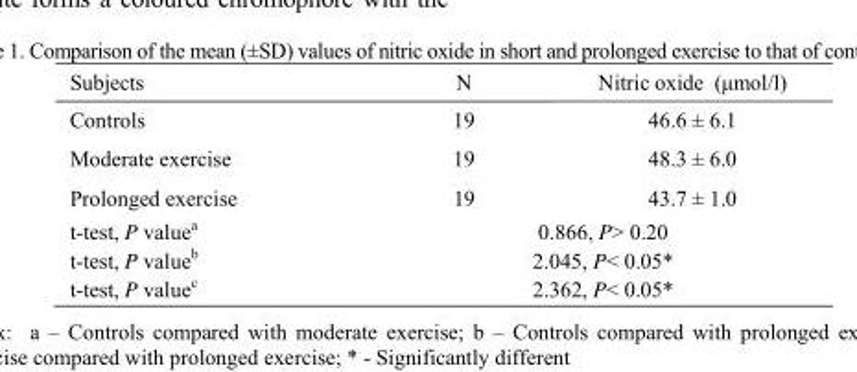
<table><thead><tr><td>Subjects</td><td>N</td><td>Nitric oxide (μmol/l)</td></tr></thead><tbody><tr><td>Controls</td><td>19</td><td>46.6 ± 6.1</td></tr><tr><td>Moderate exercise</td><td>19</td><td>48.3 ± 6.0</td></tr><tr><td>Prolonged exercise</td><td>19</td><td>43.7 ± 1.0</td></tr><tr><td>t-test, P value<sup>a</sup></td><td colspan="2">0.866, P&gt; 0.20</td></tr><tr><td>t-test, P value<sup>b</sup></td><td colspan="2">2.045, P&lt; 0.05*</td></tr><tr><td>t-test, P value<sup>c</sup></td><td colspan="2">2.362, P&lt; 0.05*</td></tr></tbody></table>